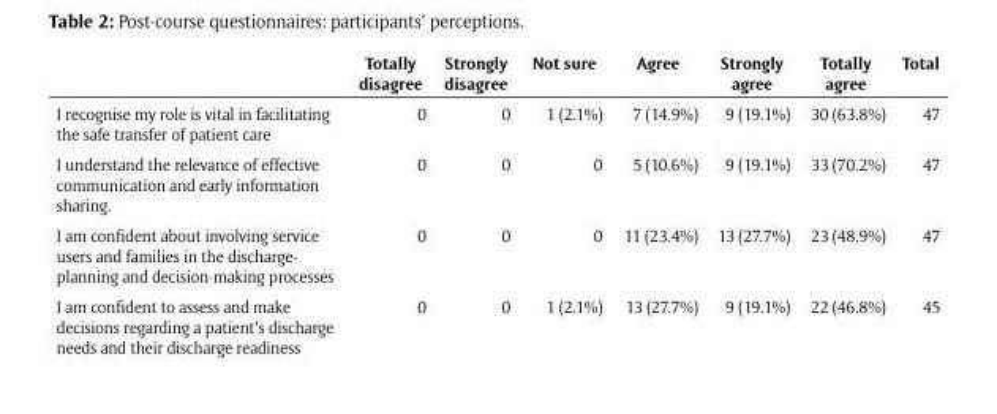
<table><thead><tr><td></td><td>Totally disagree</td><td>Strongly disagree</td><td>Not sure</td><td>Agree</td><td>Strongly agree</td><td>Totally agree</td><td>Total</td></tr></thead><tbody><tr><td>I recognise my role is vital in facilitating the safe transfer of patient care</td><td>0</td><td>0</td><td>1 (2.1%)</td><td>7 (14.9%)</td><td>9 (19.1%)</td><td>30 (63.8%)</td><td>47</td></tr><tr><td>I understand the relevance of effective communication and early information sharing.</td><td>0</td><td>0</td><td>0</td><td>5 (10.6%)</td><td>9 (19.1%)</td><td>33 (70.2%)</td><td>47</td></tr><tr><td>I am confident about involving service users and families in the discharge- planning and decision-making processes</td><td>0</td><td>0</td><td>0</td><td>11 (23.4%)</td><td>13 (27.7%)</td><td>23 (48.9%)</td><td>47</td></tr><tr><td>I am confident to assess and make decisions regarding a patient’s discharge needs and their discharge readiness</td><td>0</td><td>0</td><td>1 (2.1%)</td><td>13 (27.7%)</td><td>9 (19.1%)</td><td>22 (46.8%)</td><td>45</td></tr></tbody></table>